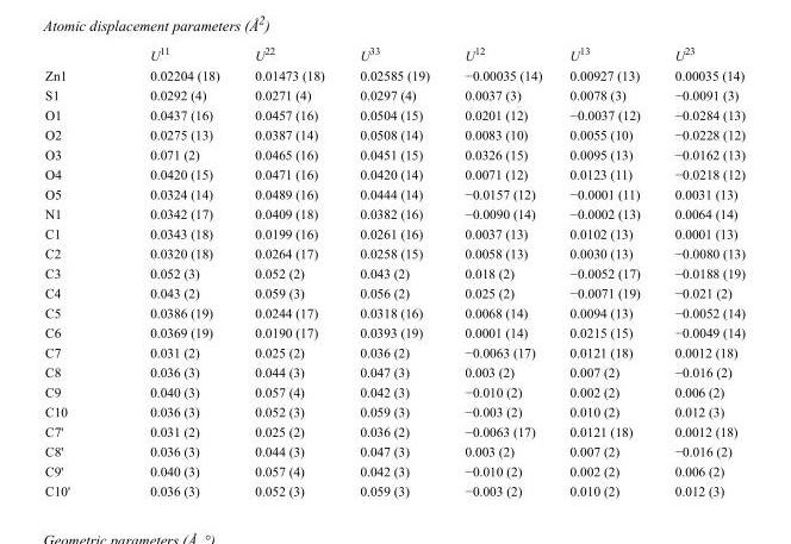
<table><thead><tr><td></td><td>U<sup>11</sup></td><td>U<sup>22</sup></td><td>U<sup>33</sup></td><td>U<sup>12</sup></td><td>U<sup>13</sup></td><td>U<sup>23</sup></td></tr></thead><tbody><tr><td>Zn1</td><td>0.02204 (18)</td><td>0.01473 (18)</td><td>0.02585 (19)</td><td>−0.00035 (14)</td><td>0.00927 (13)</td><td>0.00035 (14)</td></tr><tr><td>S1</td><td>0.0292 (4)</td><td>0.0271 (4)</td><td>0.0297 (4)</td><td>0.0037 (3)</td><td>0.0078 (3)</td><td>−0.0091 (3)</td></tr><tr><td>O1</td><td>0.0437 (16)</td><td>0.0457 (16)</td><td>0.0504 (15)</td><td>0.0201 (12)</td><td>−0.0037 (12)</td><td>−0.0284 (13)</td></tr><tr><td>O2</td><td>0.0275 (13)</td><td>0.0387 (14)</td><td>0.0508 (14)</td><td>0.0083 (10)</td><td>0.0055 (10)</td><td>−0.0228 (12)</td></tr><tr><td>O3</td><td>0.071 (2)</td><td>0.0465 (16)</td><td>0.0451 (15)</td><td>0.0326 (15)</td><td>0.0095 (13)</td><td>−0.0162 (13)</td></tr><tr><td>O4</td><td>0.0420 (15)</td><td>0.0471 (16)</td><td>0.0420 (14)</td><td>0.0071 (12)</td><td>0.0123 (11)</td><td>−0.0218 (12)</td></tr><tr><td>O5</td><td>0.0324 (14)</td><td>0.0489 (16)</td><td>0.0444 (14)</td><td>−0.0157 (12)</td><td>−0.0001 (11)</td><td>0.0031 (13)</td></tr><tr><td>N1</td><td>0.0342 (17)</td><td>0.0409 (18)</td><td>0.0382 (16)</td><td>−0.0090 (14)</td><td>−0.0002 (13)</td><td>0.0064 (14)</td></tr><tr><td>C1</td><td>0.0343 (18)</td><td>0.0199 (16)</td><td>0.0261 (16)</td><td>0.0037 (13)</td><td>0.0102 (13)</td><td>0.0001 (13)</td></tr><tr><td>C2</td><td>0.0320 (18)</td><td>0.0264 (17)</td><td>0.0258 (15)</td><td>0.0058 (13)</td><td>0.0030 (13)</td><td>−0.0080 (13)</td></tr><tr><td>C3</td><td>0.052 (3)</td><td>0.052 (2)</td><td>0.043 (2)</td><td>0.018 (2)</td><td>−0.0052 (17)</td><td>−0.0188 (19)</td></tr><tr><td>C4</td><td>0.043 (2)</td><td>0.059 (3)</td><td>0.056 (2)</td><td>0.025 (2)</td><td>−0.0071 (19)</td><td>−0.021 (2)</td></tr><tr><td>C5</td><td>0.0386 (19)</td><td>0.0244 (17)</td><td>0.0318 (16)</td><td>0.0068 (14)</td><td>0.0094 (13)</td><td>−0.0052 (14)</td></tr><tr><td>C6</td><td>0.0369 (19)</td><td>0.0190 (17)</td><td>0.0393 (19)</td><td>0.0001 (14)</td><td>0.0215 (15)</td><td>−0.0049 (14)</td></tr><tr><td>C7</td><td>0.031 (2)</td><td>0.025 (2)</td><td>0.036 (2)</td><td>−0.0063 (17)</td><td>0.0121 (18)</td><td>0.0012 (18)</td></tr><tr><td>C8</td><td>0.036 (3)</td><td>0.044 (3)</td><td>0.047 (3)</td><td>0.003 (2)</td><td>0.007 (2)</td><td>−0.016 (2)</td></tr><tr><td>C9</td><td>0.040 (3)</td><td>0.057 (4)</td><td>0.042 (3)</td><td>−0.010 (2)</td><td>0.002 (2)</td><td>0.006 (2)</td></tr><tr><td>C10</td><td>0.036 (3)</td><td>0.052 (3)</td><td>0.059 (3)</td><td>−0.003 (2)</td><td>0.010 (2)</td><td>0.012 (3)</td></tr><tr><td>C7&#x27;</td><td>0.031 (2)</td><td>0.025 (2)</td><td>0.036 (2)</td><td>−0.0063 (17)</td><td>0.0121 (18)</td><td>0.0012 (18)</td></tr><tr><td>C8&#x27;</td><td>0.036 (3)</td><td>0.044 (3)</td><td>0.047 (3)</td><td>0.003 (2)</td><td>0.007 (2)</td><td>−0.016 (2)</td></tr><tr><td>C9&#x27;</td><td>0.040 (3)</td><td>0.057 (4)</td><td>0.042 (3)</td><td>−0.010 (2)</td><td>0.002 (2)</td><td>0.006 (2)</td></tr><tr><td>C10&#x27;</td><td>0.036 (3)</td><td>0.052 (3)</td><td>0.059 (3)</td><td>−0.003 (2)</td><td>0.010 (2)</td><td>0.012 (3)</td></tr></tbody></table>